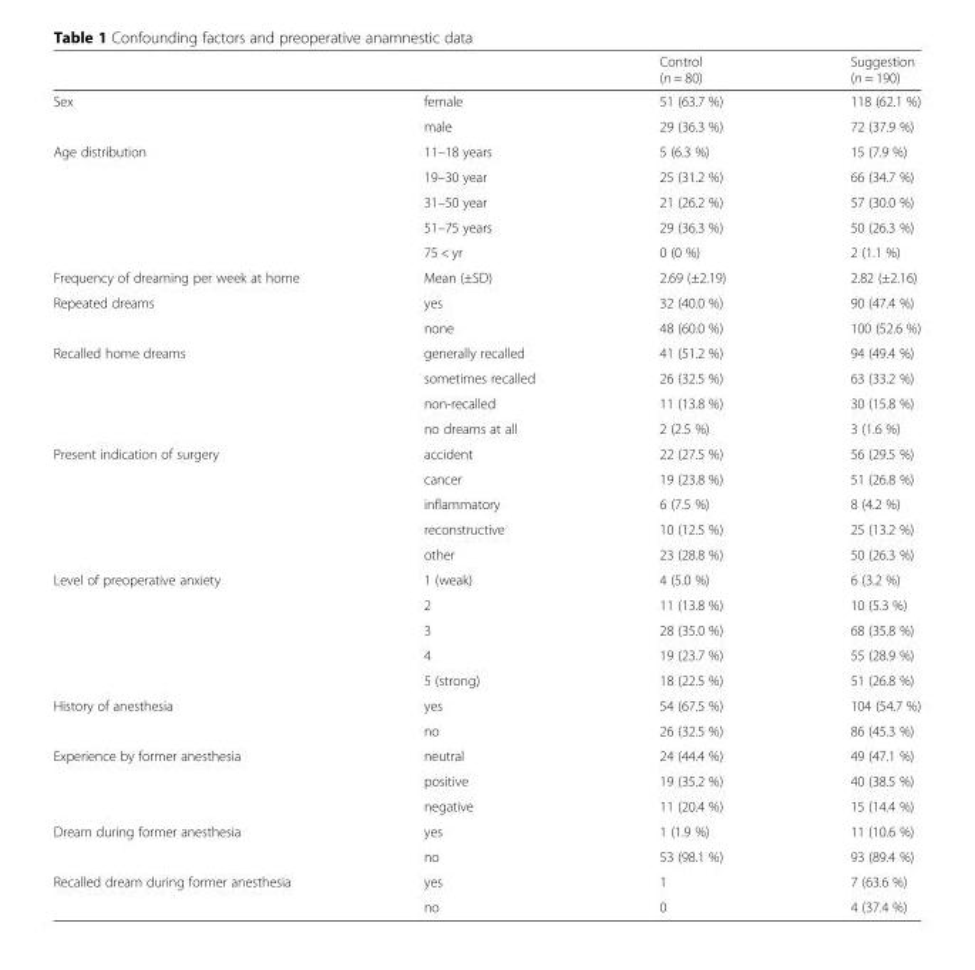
<table><thead><tr><td></td><td></td><td>Control (n = 80)</td><td>Suggestion (n = 190)</td></tr></thead><tbody><tr><td rowspan="2">Sex</td><td>female</td><td>51 (63.7 %)</td><td>118 (62.1 %)</td></tr><tr><td>male</td><td>29 (36.3 %)</td><td>72 (37.9 %)</td></tr><tr><td rowspan="5">Age distribution</td><td>11–18 years</td><td>5 (6.3 %)</td><td>15 (7.9 %)</td></tr><tr><td>19–30 year</td><td>25 (31.2 %)</td><td>66 (34.7 %)</td></tr><tr><td>31–50 year</td><td>21 (26.2 %)</td><td>57 (30.0 %)</td></tr><tr><td>51–75 years</td><td>29 (36.3 %)</td><td>50 (26.3 %)</td></tr><tr><td>75 &lt; yr</td><td>0 (0 %)</td><td>2 (1.1 %)</td></tr><tr><td>Frequency of dreaming per week at home</td><td>Mean (±SD)</td><td>2.69 (±2.19)</td><td>2.82 (±2.16)</td></tr><tr><td rowspan="2">Repeated dreams</td><td>yes</td><td>32 (40.0 %)</td><td>90 (47.4 %)</td></tr><tr><td>none</td><td>48 (60.0 %)</td><td>100 (52.6 %)</td></tr><tr><td rowspan="4">Recalled home dreams</td><td>generally recalled</td><td>41 (51.2 %)</td><td>94 (49.4 %)</td></tr><tr><td>sometimes recalled</td><td>26 (32.5 %)</td><td>63 (33.2 %)</td></tr><tr><td>non-recalled</td><td>11 (13.8 %)</td><td>30 (15.8 %)</td></tr><tr><td>no dreams at all</td><td>2 (2.5 %)</td><td>3 (1.6 %)</td></tr><tr><td rowspan="5">Present indication of surgery</td><td>accident</td><td>22 (27.5 %)</td><td>56 (29.5 %)</td></tr><tr><td>cancer</td><td>19 (23.8 %)</td><td>51 (26.8 %)</td></tr><tr><td>inflammatory</td><td>6 (7.5 %)</td><td>8 (4.2 %)</td></tr><tr><td>reconstructive</td><td>10 (12.5 %)</td><td>25 (13.2 %)</td></tr><tr><td>other</td><td>23 (28.8 %)</td><td>50 (26.3 %)</td></tr><tr><td rowspan="5">Level of preoperative anxiety</td><td>1 (weak)</td><td>4 (5.0 %)</td><td>6 (3.2 %)</td></tr><tr><td>2</td><td>11 (13.8 %)</td><td>10 (5.3 %)</td></tr><tr><td>3</td><td>28 (35.0 %)</td><td>68 (35.8 %)</td></tr><tr><td>4</td><td>19 (23.7 %)</td><td>55 (28.9 %)</td></tr><tr><td>5 (strong)</td><td>18 (22.5 %)</td><td>51 (26.8 %)</td></tr><tr><td rowspan="2">History of anesthesia</td><td>yes</td><td>54 (67.5 %)</td><td>104 (54.7 %)</td></tr><tr><td>no</td><td>26 (32.5 %)</td><td>86 (45.3 %)</td></tr><tr><td rowspan="3">Experience by former anesthesia</td><td>neutral</td><td>24 (44.4 %)</td><td>49 (47.1 %)</td></tr><tr><td>positive</td><td>19 (35.2 %)</td><td>40 (38.5 %)</td></tr><tr><td>negative</td><td>11 (20.4 %)</td><td>15 (14.4 %)</td></tr><tr><td rowspan="2">Dream during former anesthesia</td><td>yes</td><td>1 (1.9 %)</td><td>11 (10.6 %)</td></tr><tr><td>no</td><td>53 (98.1 %)</td><td>93 (89.4 %)</td></tr><tr><td rowspan="2">Recalled dream during former anesthesia</td><td>yes</td><td>1</td><td>7 (63.6 %)</td></tr><tr><td>no</td><td>0</td><td>4 (37.4 %)</td></tr></tbody></table>